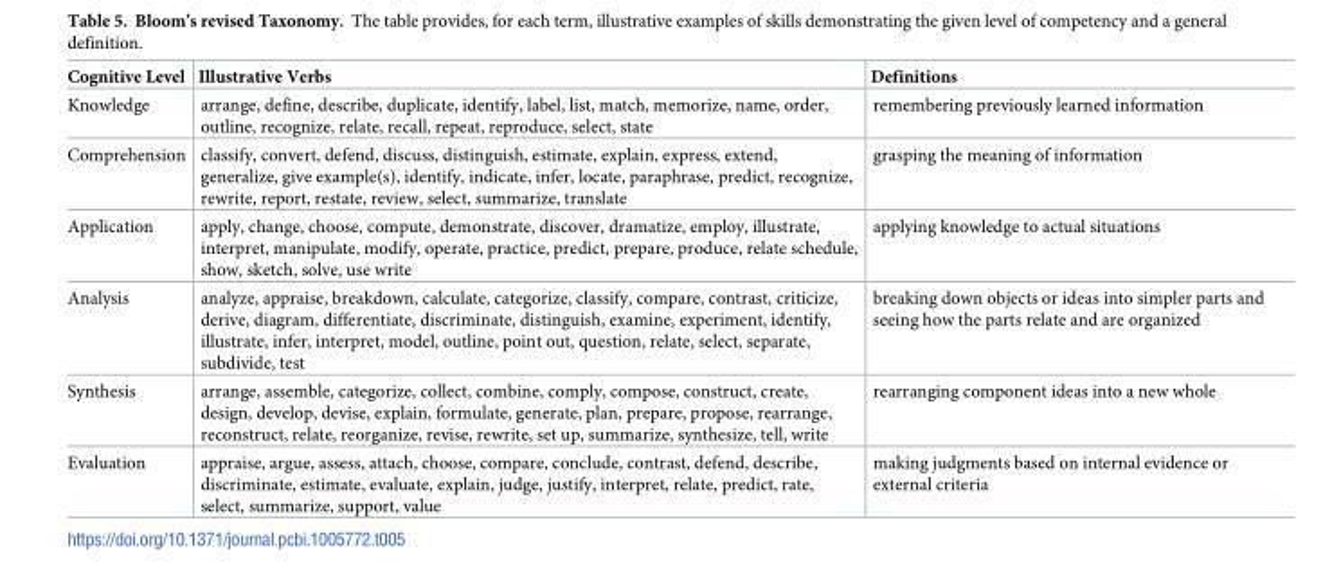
<table><thead><tr><td>Cognitive Level</td><td>Illustrative Verbs</td><td>Definitions</td></tr></thead><tbody><tr><td>Knowledge</td><td>arrange, define, describe, duplicate, identify, label, list, match, memorize, name, order, outline, recognize, relate, recall, repeat, reproduce, select, state</td><td>remembering previously learned information</td></tr><tr><td>Comprehension</td><td>classify, convert, defend, discuss, distinguish, estimate, explain, express, extend, generalize, give example(s), identify, indicate, infer, locate, paraphrase, predict, recognize, rewrite, report, restate, review, select, summarize, translate</td><td>grasping the meaning of information</td></tr><tr><td>Application</td><td>apply, change, choose, compute, demonstrate, discover, dramatize, employ, illustrate, interpret, manipulate, modify, operate, practice, predict, prepare, produce, relate schedule, show, sketch, solve, use write</td><td>applying knowledge to actual situations</td></tr><tr><td>Analysis</td><td>analyze, appraise, breakdown, calculate, categorize, classify, compare, contrast, criticize, derive, diagram, differentiate, discriminate, distinguish, examine, experiment, identify, illustrate, infer, interpret, model, outline, point out, question, relate, select, separate, subdivide, test</td><td>breaking down objects or ideas into simpler parts and seeing how the parts relate and are organized</td></tr><tr><td>Synthesis</td><td>arrange, assemble, categorize, collect, combine, comply, compose, construct, create, design, develop, devise, explain, formulate, generate, plan, prepare, propose, rearrange, reconstruct, relate, reorganize, revise, rewrite, set up, summarize, synthesize, tell, write</td><td>rearranging component ideas into a new whole</td></tr><tr><td>Evaluation</td><td>appraise, argue, assess, attach, choose, compare, conclude, contrast, defend, describe, discriminate, estimate, evaluate, explain, judge, justify, interpret, relate, predict, rate, select, summarize, support, value</td><td>making judgments based on internal evidence or external criteria</td></tr></tbody></table>